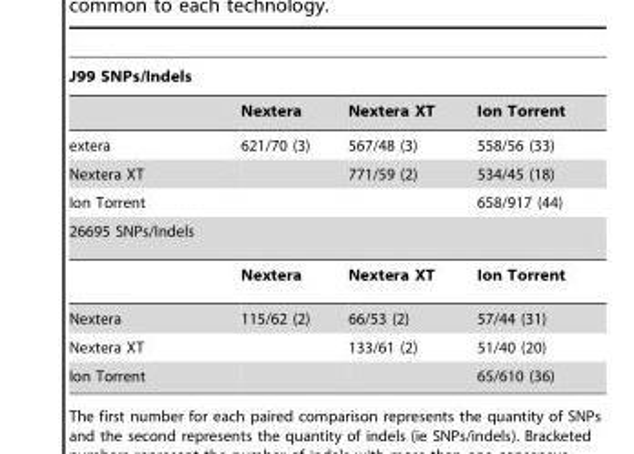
<table><thead><tr><td colspan="4">J99 SNPs/Indels</td></tr><tr><td></td><td>Nextera</td><td>Nextera XT</td><td>Ion Torrent</td></tr></thead><tbody><tr><td>extera</td><td>621/70 (3)</td><td>567/48 (3)</td><td>558/56 (33)</td></tr><tr><td>Nextera XT</td><td></td><td>771/59 (2)</td><td>534/45 (18)</td></tr><tr><td>Ion Torrent</td><td></td><td></td><td>658/917 (44)</td></tr><tr><td colspan="4">26695 SNPs/Indels</td></tr><tr><td></td><td>Nextera</td><td>Nextera XT</td><td>Ion Torrent</td></tr><tr><td>Nextera</td><td>115/62 (2)</td><td>66/53 (2)</td><td>57/44 (31)</td></tr><tr><td>Nextera XT</td><td></td><td>133/61 (2)</td><td>51/40 (20)</td></tr><tr><td>Ion Torrent</td><td></td><td></td><td>65/610 (36)</td></tr></tbody></table>